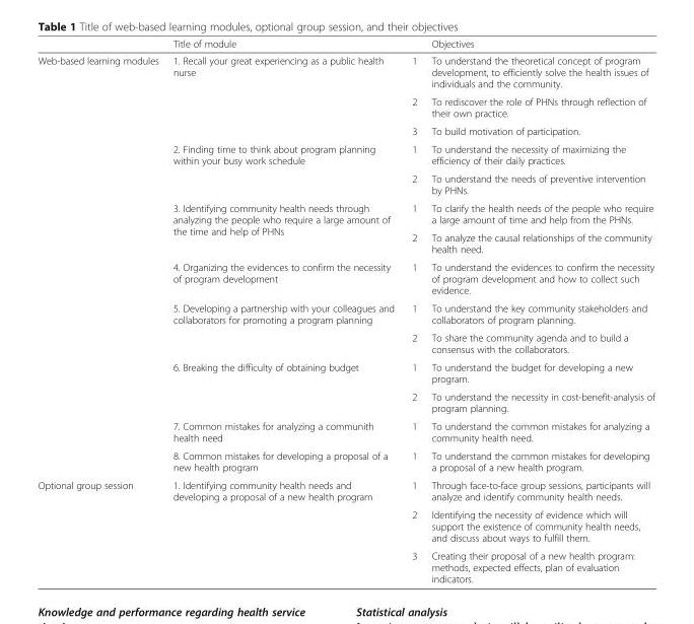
<table><thead><tr><td></td><td>Title of module</td><td></td><td>Objectives</td></tr></thead><tbody><tr><td rowspan="14">Web-based learning modules</td><td rowspan="3">1. Recall your great experiencing as a public health nurse</td><td>1</td><td>To understand the theoretical concept of program development, to efficiently solve the health issues of individuals and the community.</td></tr><tr><td>2</td><td>To rediscover the role of PHNs through reflection of their own practice.</td></tr><tr><td>3</td><td>To build motivation of participation.</td></tr><tr><td rowspan="2">2. Finding time to think about program planning within your busy work schedule</td><td>1</td><td>To understand the necessity of maximizing the efficiency of their daily practices.</td></tr><tr><td>2</td><td>To understand the needs of preventive intervention by PHNs.</td></tr><tr><td rowspan="2">3. Identifying community health needs through analyzing the people who require a large amount of the time and help of PHNs</td><td>1</td><td>To clarify the health needs of the people who require a large amount of time and help from the PHNs.</td></tr><tr><td>2</td><td>To analyze the causal relationships of the community health need.</td></tr><tr><td>4. Organizing the evidences to confirm the necessity of program development</td><td>1</td><td>To understand the evidences to confirm the necessity of program development and how to collect such evidence.</td></tr><tr><td rowspan="2">5. Developing a partnership with your colleagues and collaborators for promoting a program planning</td><td>1</td><td>To understand the key community stakeholders and collaborators of program planning.</td></tr><tr><td>2</td><td>To share the community agenda and to build a consensus with the collaborators.</td></tr><tr><td rowspan="2">6. Breaking the difficulty of obtaining budget</td><td>1</td><td>To understand the budget for developing a new program.</td></tr><tr><td>2</td><td>To understand the necessity in cost-benefit-analysis of program planning.</td></tr><tr><td>7. Common mistakes for analyzing a communith health need</td><td>1</td><td>To understand the common mistakes for analyzing a community health need.</td></tr><tr><td>8. Common mistakes for developing a proposal of a new health program</td><td>1</td><td>To understand the common mistakes for developing a proposal of a new health program.</td></tr><tr><td rowspan="3">Optional group session</td><td rowspan="3">1. Identifying community health needs and developing a proposal of a new health program</td><td>1</td><td>Through face-to-face group sessions, participants will analyze and identify community health needs.</td></tr><tr><td>2</td><td>Identifying the necessity of evidence which will support the existence of community health needs, and discuss about ways to fulfill them.</td></tr><tr><td>3</td><td>Creating their proposal of a new health program: methods, expected effects, plan of evaluation indicators.</td></tr></tbody></table>